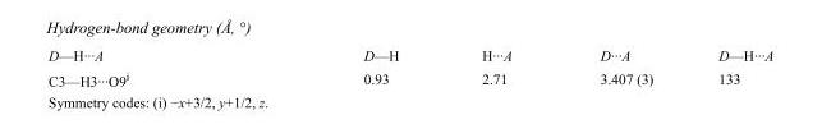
<table><tbody><tr><td>D—H···A</td><td>D—H</td><td>H···A</td><td>D···A</td><td>D—H···A</td></tr><tr><td>C3—H3···O9<sup>i</sup></td><td>0.93</td><td>2.71</td><td>3.407 (3)</td><td>133</td></tr></tbody></table>